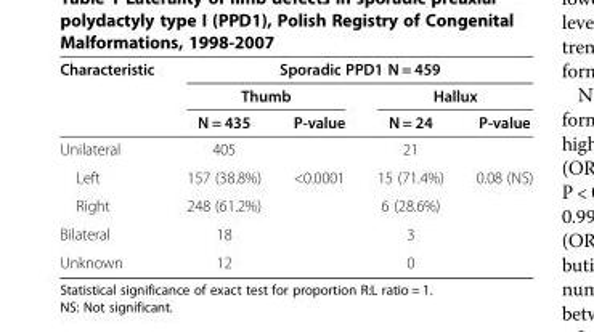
<table><thead><tr><td rowspan="3">Characteristic</td><td colspan="4">Sporadic PPD1 N = 459</td></tr><tr><td colspan="2">Thumb</td><td colspan="2">Hallux</td></tr><tr><td>N = 435</td><td>P-value</td><td>N = 24</td><td>P-value</td></tr></thead><tbody><tr><td>Unilateral</td><td>405</td><td></td><td>21</td><td></td></tr><tr><td>Left</td><td>157 (38.8%)</td><td rowspan="2">&lt;0.0001</td><td>15 (71.4%)</td><td rowspan="2">0.08 (NS)</td></tr><tr><td>Right</td><td>248 (61.2%)</td><td>6 (28.6%)</td></tr><tr><td>Bilateral</td><td>18</td><td></td><td>3</td><td></td></tr><tr><td>Unknown</td><td>12</td><td></td><td>0</td><td></td></tr></tbody></table>